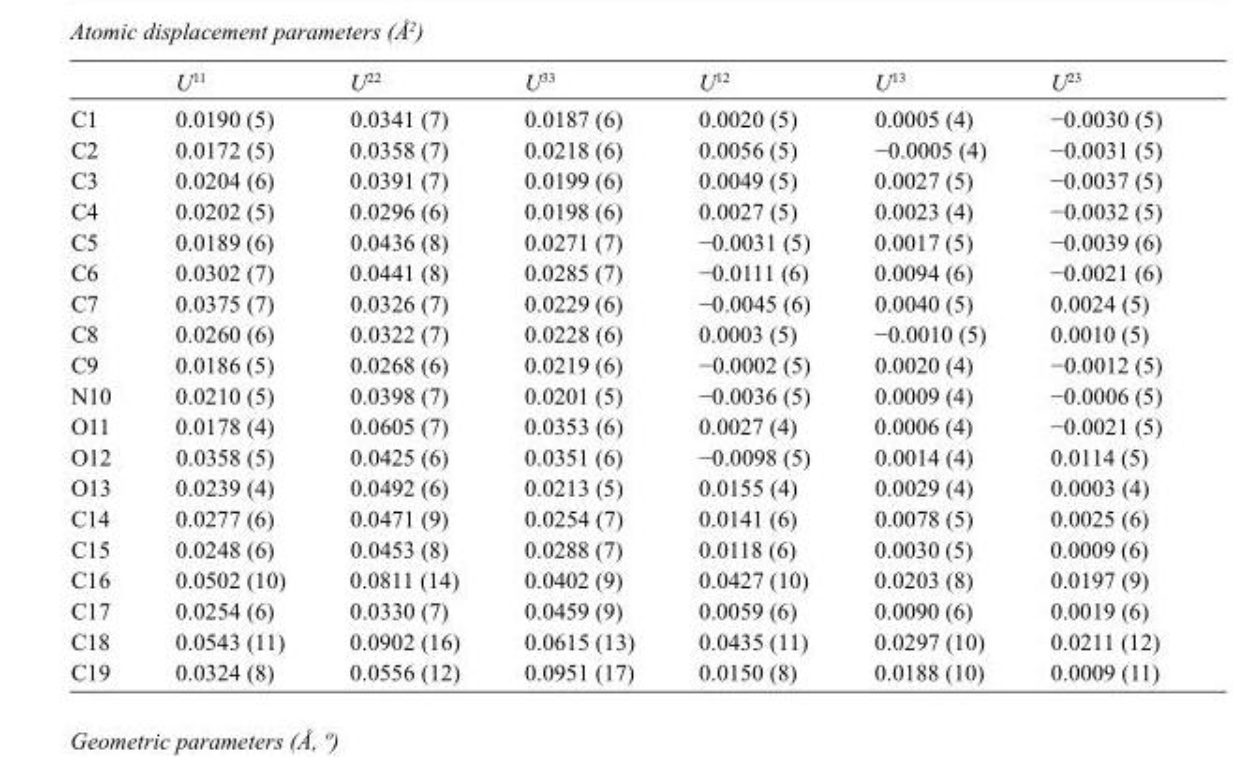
<table><thead><tr><td></td><td>U<sup>11</sup></td><td>U<sup>22</sup></td><td>U<sup>33</sup></td><td>U<sup>12</sup></td><td>U<sup>13</sup></td><td>U<sup>23</sup></td></tr></thead><tbody><tr><td>C1</td><td>0.0190 (5)</td><td>0.0341 (7)</td><td>0.0187 (6)</td><td>0.0020 (5)</td><td>0.0005 (4)</td><td>−0.0030 (5)</td></tr><tr><td>C2</td><td>0.0172 (5)</td><td>0.0358 (7)</td><td>0.0218 (6)</td><td>0.0056 (5)</td><td>−0.0005 (4)</td><td>−0.0031 (5)</td></tr><tr><td>C3</td><td>0.0204 (6)</td><td>0.0391 (7)</td><td>0.0199 (6)</td><td>0.0049 (5)</td><td>0.0027 (5)</td><td>−0.0037 (5)</td></tr><tr><td>C4</td><td>0.0202 (5)</td><td>0.0296 (6)</td><td>0.0198 (6)</td><td>0.0027 (5)</td><td>0.0023 (4)</td><td>−0.0032 (5)</td></tr><tr><td>C5</td><td>0.0189 (6)</td><td>0.0436 (8)</td><td>0.0271 (7)</td><td>−0.0031 (5)</td><td>0.0017 (5)</td><td>−0.0039 (6)</td></tr><tr><td>C6</td><td>0.0302 (7)</td><td>0.0441 (8)</td><td>0.0285 (7)</td><td>−0.0111 (6)</td><td>0.0094 (6)</td><td>−0.0021 (6)</td></tr><tr><td>C7</td><td>0.0375 (7)</td><td>0.0326 (7)</td><td>0.0229 (6)</td><td>−0.0045 (6)</td><td>0.0040 (5)</td><td>0.0024 (5)</td></tr><tr><td>C8</td><td>0.0260 (6)</td><td>0.0322 (7)</td><td>0.0228 (6)</td><td>0.0003 (5)</td><td>−0.0010 (5)</td><td>0.0010 (5)</td></tr><tr><td>C9</td><td>0.0186 (5)</td><td>0.0268 (6)</td><td>0.0219 (6)</td><td>−0.0002 (5)</td><td>0.0020 (4)</td><td>−0.0012 (5)</td></tr><tr><td>N10</td><td>0.0210 (5)</td><td>0.0398 (7)</td><td>0.0201 (5)</td><td>−0.0036 (5)</td><td>0.0009 (4)</td><td>−0.0006 (5)</td></tr><tr><td>O11</td><td>0.0178 (4)</td><td>0.0605 (7)</td><td>0.0353 (6)</td><td>0.0027 (4)</td><td>0.0006 (4)</td><td>−0.0021 (5)</td></tr><tr><td>O12</td><td>0.0358 (5)</td><td>0.0425 (6)</td><td>0.0351 (6)</td><td>−0.0098 (5)</td><td>0.0014 (4)</td><td>0.0114 (5)</td></tr><tr><td>O13</td><td>0.0239 (4)</td><td>0.0492 (6)</td><td>0.0213 (5)</td><td>0.0155 (4)</td><td>0.0029 (4)</td><td>0.0003 (4)</td></tr><tr><td>C14</td><td>0.0277 (6)</td><td>0.0471 (9)</td><td>0.0254 (7)</td><td>0.0141 (6)</td><td>0.0078 (5)</td><td>0.0025 (6)</td></tr><tr><td>C15</td><td>0.0248 (6)</td><td>0.0453 (8)</td><td>0.0288 (7)</td><td>0.0118 (6)</td><td>0.0030 (5)</td><td>0.0009 (6)</td></tr><tr><td>C16</td><td>0.0502 (10)</td><td>0.0811 (14)</td><td>0.0402 (9)</td><td>0.0427 (10)</td><td>0.0203 (8)</td><td>0.0197 (9)</td></tr><tr><td>C17</td><td>0.0254 (6)</td><td>0.0330 (7)</td><td>0.0459 (9)</td><td>0.0059 (6)</td><td>0.0090 (6)</td><td>0.0019 (6)</td></tr><tr><td>C18</td><td>0.0543 (11)</td><td>0.0902 (16)</td><td>0.0615 (13)</td><td>0.0435 (11)</td><td>0.0297 (10)</td><td>0.0211 (12)</td></tr><tr><td>C19</td><td>0.0324 (8)</td><td>0.0556 (12)</td><td>0.0951 (17)</td><td>0.0150 (8)</td><td>0.0188 (10)</td><td>0.0009 (11)</td></tr></tbody></table>